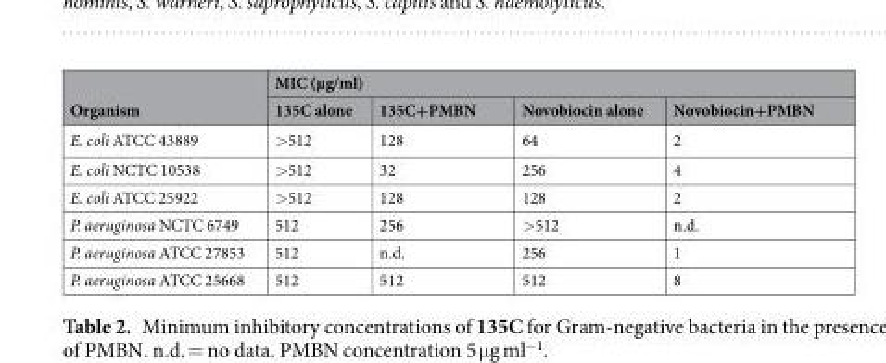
<table><thead><tr><td rowspan="2">Organism</td><td colspan="4">MIC (µg/ml)</td></tr><tr><td>135C alone</td><td>135C+PMBN</td><td>Novobiocin alone</td><td>Novobiocin+PMBN</td></tr></thead><tbody><tr><td>E. coli ATCC 43889</td><td>&gt;512</td><td>128</td><td>64</td><td>2</td></tr><tr><td>E. coli NCTC 10538</td><td>&gt;512</td><td>32</td><td>256</td><td>4</td></tr><tr><td>E. coli ATCC 25922</td><td>&gt;512</td><td>128</td><td>128</td><td>2</td></tr><tr><td>P. aeruginosa NCTC 6749</td><td>512</td><td>256</td><td>&gt;512</td><td>n.d.</td></tr><tr><td>P. aeruginosa ATCC 27853</td><td>512</td><td>n.d.</td><td>256</td><td>1</td></tr><tr><td>P. aeruginosa ATCC 25668</td><td>512</td><td>512</td><td>512</td><td>8</td></tr></tbody></table>